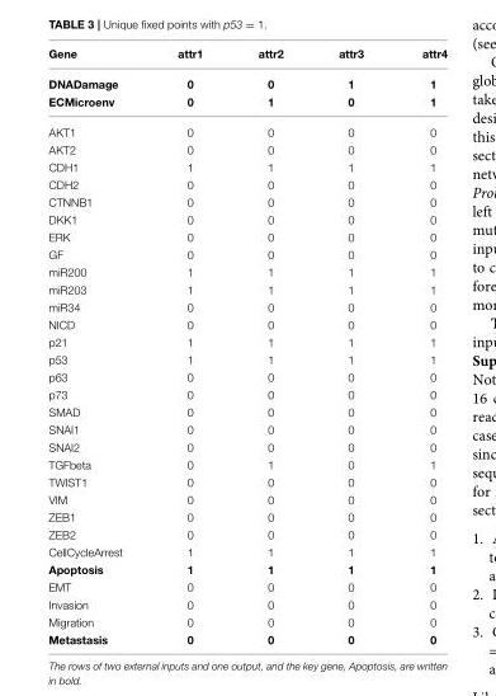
<table><thead><tr><td rowspan="3">Gene DNADamage ECMicroenv</td><td rowspan="3">attr1 0 0</td><td rowspan="3">attr2 0 1</td><td rowspan="3">attr3 1 0</td><td rowspan="3">attr4 1 1</td></tr><tr></tr><tr></tr></thead><tbody><tr><td>AKT1</td><td>0</td><td>0</td><td>0</td><td>0</td></tr><tr><td>AKT2</td><td>0</td><td>0</td><td>0</td><td>0</td></tr><tr><td>CDH1</td><td>1</td><td>1</td><td>1</td><td>1</td></tr><tr><td>CDH2</td><td>0</td><td>0</td><td>0</td><td>0</td></tr><tr><td>CTNNB1</td><td>0</td><td>0</td><td>0</td><td>0</td></tr><tr><td>DKK1</td><td>0</td><td>0</td><td>0</td><td>0</td></tr><tr><td>ERK</td><td>0</td><td>0</td><td>0</td><td>0</td></tr><tr><td>GF</td><td>0</td><td>0</td><td>0</td><td>0</td></tr><tr><td>miR200</td><td>1</td><td>1</td><td>1</td><td>1</td></tr><tr><td>miR203</td><td>1</td><td>1</td><td>1</td><td>1</td></tr><tr><td>miR34</td><td>0</td><td>0</td><td>0</td><td>0</td></tr><tr><td>NICD</td><td>0</td><td>0</td><td>0</td><td>0</td></tr><tr><td>p21</td><td>1</td><td>1</td><td>1</td><td>1</td></tr><tr><td>p53</td><td>1</td><td>1</td><td>1</td><td>1</td></tr><tr><td>p63</td><td>0</td><td>0</td><td>0</td><td>0</td></tr><tr><td>p73</td><td>0</td><td>0</td><td>0</td><td>0</td></tr><tr><td>SMAD</td><td>0</td><td>0</td><td>0</td><td>0</td></tr><tr><td>SNAI1</td><td>0</td><td>0</td><td>0</td><td>0</td></tr><tr><td>SNAI2</td><td>0</td><td>0</td><td>0</td><td>0</td></tr><tr><td>TGFbeta</td><td>0</td><td>1</td><td>0</td><td>1</td></tr><tr><td>TWIST1</td><td>0</td><td>0</td><td>0</td><td>0</td></tr><tr><td>VIM</td><td>0</td><td>0</td><td>0</td><td>0</td></tr><tr><td>ZEB1</td><td>0</td><td>0</td><td>0</td><td>0</td></tr><tr><td>ZEB2</td><td>0</td><td>0</td><td>0</td><td>0</td></tr><tr><td>CellCycleArrest</td><td>1</td><td>1</td><td>1</td><td>1</td></tr><tr><td>Apoptosis</td><td>1</td><td>1</td><td>1</td><td>1</td></tr><tr><td>EMT</td><td>0</td><td>0</td><td>0</td><td>0</td></tr><tr><td>Invasion</td><td>0</td><td>0</td><td>0</td><td>0</td></tr><tr><td>Migration</td><td>0</td><td>0</td><td>0</td><td>0</td></tr><tr><td>Metastasis</td><td>0</td><td>0</td><td>0</td><td>0</td></tr></tbody></table>